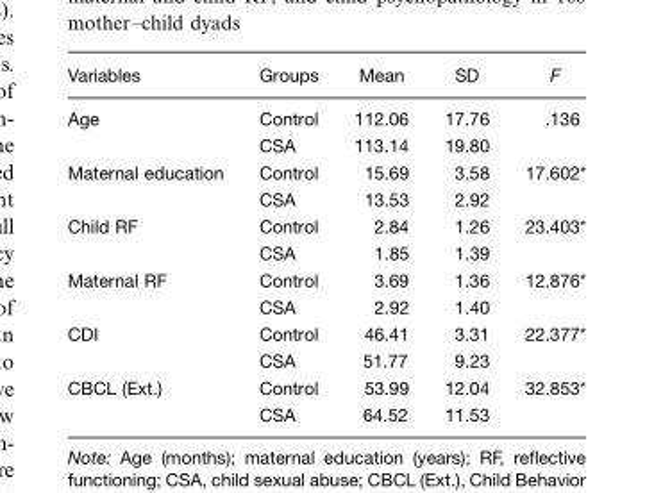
<table><thead><tr><td>Variables</td><td>Groups</td><td>Mean</td><td>SD</td><td>F</td></tr></thead><tbody><tr><td>Age</td><td>Control CSA</td><td>112.06 113.14</td><td>17.76 19.80</td><td>.136</td></tr><tr><td>Maternal education</td><td>Control CSA</td><td>15.69 13.53</td><td>3.58 2.92</td><td>17.602*</td></tr><tr><td>Child RF</td><td>Control CSA</td><td>2.84 1.85</td><td>1.26 1.39</td><td>23.403*</td></tr><tr><td>Maternal RF</td><td>Control CSA</td><td>3.69 2.92</td><td>1.36 1.40</td><td>12.876*</td></tr><tr><td>CDI</td><td>Control CSA</td><td>46.41 51.77</td><td>3.31 9.23</td><td>22.377*</td></tr><tr><td>CBCL (Ext.)</td><td>Control CSA</td><td>53.99 64.52</td><td>12.04 11.53</td><td>32.853*</td></tr></tbody></table>